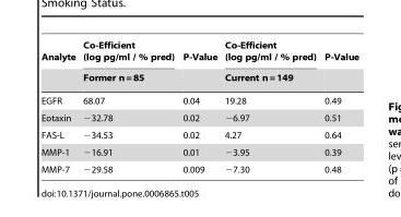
<table><thead><tr><td rowspan="2">Analyte</td><td rowspan="2">Co-Efficient (log pg/ml / % pred) Former n= 85</td><td rowspan="2">P-Value</td><td rowspan="2">Co-Efficient (log pg/ml / % pred) Current n= 149</td><td rowspan="2">P-Value</td></tr><tr></tr></thead><tbody><tr><td>EGFR</td><td>68.07</td><td>0.04</td><td>19.28</td><td>0.49</td></tr><tr><td>Eotaxin</td><td>−32.78</td><td>0.02</td><td>−6.97</td><td>0.51</td></tr><tr><td>FAS-L</td><td>−34.53</td><td>0.02</td><td>4.27</td><td>0.64</td></tr><tr><td>MMP-1</td><td>−16.91</td><td>0.01</td><td>−3.95</td><td>0.39</td></tr><tr><td>MMP-7</td><td>−29.58</td><td>0.009</td><td>−7.30</td><td>0.48</td></tr></tbody></table>